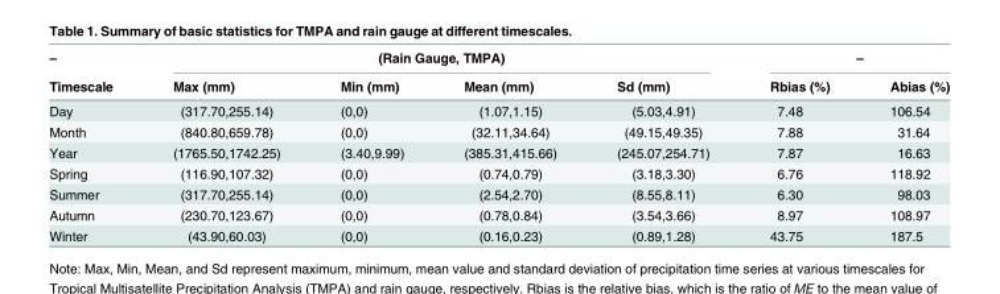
<table><thead><tr><td rowspan="2">– Timescale</td><td colspan="4">(Rain Gauge, TMPA)</td><td colspan="2">–</td></tr><tr><td>Max (mm)</td><td>Min (mm)</td><td>Mean (mm)</td><td>Sd (mm)</td><td>Rbias (%)</td><td>Abias (%)</td></tr></thead><tbody><tr><td>Day</td><td>(317.70,255.14)</td><td>(0,0)</td><td>(1.07,1.15)</td><td>(5.03,4.91)</td><td>7.48</td><td>106.54</td></tr><tr><td>Month</td><td>(840.80,659.78)</td><td>(0,0)</td><td>(32.11,34.64)</td><td>(49.15,49.35)</td><td>7.88</td><td>31.64</td></tr><tr><td>Year</td><td>(1765.50,1742.25)</td><td>(3.40,9.99)</td><td>(385.31,415.66)</td><td>(245.07,254.71)</td><td>7.87</td><td>16.63</td></tr><tr><td>Spring</td><td>(116.90,107.32)</td><td>(0,0)</td><td>(0.74,0.79)</td><td>(3.18,3.30)</td><td>6.76</td><td>118.92</td></tr><tr><td>Summer</td><td>(317.70,255.14)</td><td>(0,0)</td><td>(2.54,2.70)</td><td>(8.55,8.11)</td><td>6.30</td><td>98.03</td></tr><tr><td>Autumn</td><td>(230.70,123.67)</td><td>(0,0)</td><td>(0.78,0.84)</td><td>(3.54,3.66)</td><td>8.97</td><td>108.97</td></tr><tr><td>Winter</td><td>(43.90,60.03)</td><td>(0,0)</td><td>(0.16,0.23)</td><td>(0.89,1.28)</td><td>43.75</td><td>187.5</td></tr></tbody></table>